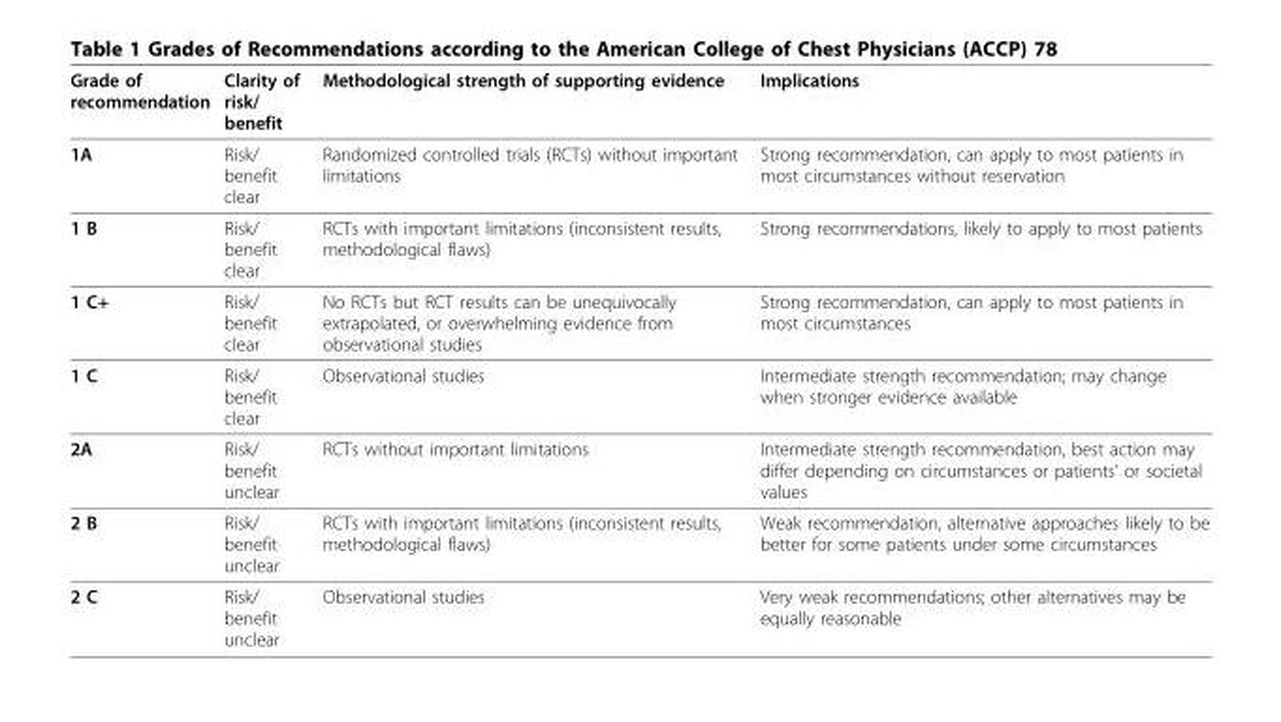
<table><thead><tr><td>Grade of recommendation</td><td>Clarity of risk/ benefit</td><td>Methodological strength of supporting evidence</td><td>Implications</td></tr></thead><tbody><tr><td>1A</td><td>Risk/ benefit clear</td><td>Randomized controlled trials (RCTs) without important limitations</td><td>Strong recommendation, can apply to most patients in most circumstances without reservation</td></tr><tr><td>1 B</td><td>Risk/ benefit clear</td><td>RCTs with important limitations (inconsistent results, methodological flaws)</td><td>Strong recommendations, likely to apply to most patients</td></tr><tr><td>1 C+</td><td>Risk/ benefit clear</td><td>No RCTs but RCT results can be unequivocally extrapolated, or overwhelming evidence from observational studies</td><td>Strong recommendation, can apply to most patients in most circumstances</td></tr><tr><td>1 C</td><td>Risk/ benefit clear</td><td>Observational studies</td><td>Intermediate strength recommendation; may change when stronger evidence available</td></tr><tr><td>2A</td><td>Risk/ benefit unclear</td><td>RCTs without important limitations</td><td>Intermediate strength recommendation, best action may differ depending on circumstances or patients’ or societal values</td></tr><tr><td>2 B</td><td>Risk/ benefit unclear</td><td>RCTs with important limitations (inconsistent results, methodological flaws)</td><td>Weak recommendation, alternative approaches likely to be better for some patients under some circumstances</td></tr><tr><td>2 C</td><td>Risk/ benefit unclear</td><td>Observational studies</td><td>Very weak recommendations; other alternatives may be equally reasonable</td></tr></tbody></table>